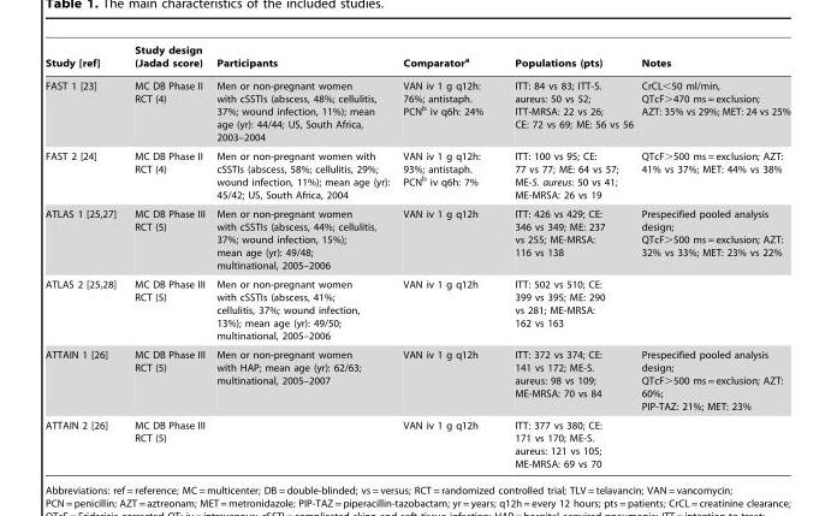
<table><thead><tr><td>Study [ref]</td><td>Study design (Jadad score)</td><td>Participants</td><td>Comparator<sup>a</sup></td><td>Populations (pts)</td><td>Notes</td></tr></thead><tbody><tr><td>FAST 1 [23]</td><td>MC DB Phase II RCT (4)</td><td>Men or non-pregnant women with cSSTIs (abscess, 48%; cellulitis, 37%; wound infection, 11%); mean age (yr): 44/44; US, South Africa, 2003–2004</td><td>VAN iv 1 g q12h: 76%; antistaph. PCN<sup>b</sup> iv q6h: 24%</td><td>ITT: 84 vs 83; ITT-S. aureus: 50 vs 52; ITT-MRSA: 22 vs 26; CE: 72 vs 69; ME: 56 vs 56</td><td>CrCL&lt;50 ml/min, QTcF&gt;470 ms = exclusion; AZT: 35% vs 29%; MET: 24 vs 25%</td></tr><tr><td>FAST 2 [24]</td><td>MC DB Phase II RCT (4)</td><td>Men or non-pregnant women with cSSTIs (abscess, 58%; cellulitis, 29%; wound infection, 11%); mean age (yr): 45/42; US, South Africa, 2004</td><td>VAN iv 1 g q12h: 93%; antistaph. PCN<sup>b</sup> iv q6h: 7%</td><td>ITT: 100 vs 95; CE: 77 vs 77; ME: 64 vs 57; ME-S. aureus: 50 vs 41; ME-MRSA: 26 vs 19</td><td>QTcF&gt;500 ms = exclusion; AZT: 41% vs 37%; MET: 44% vs 38%</td></tr><tr><td>ATLAS 1 [25,27]</td><td>MC DB Phase III RCT (5)</td><td>Men or non-pregnant women with cSSTIs (abscess, 44%; cellulitis, 37%; wound infection, 15%); mean age (yr): 49/48; multinational, 2005–2006</td><td>VAN iv 1 g q12h</td><td>ITT: 426 vs 429; CE: 346 vs 349; ME: 237 vs 255; ME-MRSA: 116 vs 138</td><td>Prespecified pooled analysis design; QTcF&gt;500 ms = exclusion; AZT: 32% vs 33%; MET: 23% vs 22%</td></tr><tr><td>ATLAS 2 [25,28]</td><td>MC DB Phase III RCT (5)</td><td>Men or non-pregnant women with cSSTIs (abscess, 41%; cellulitis, 37%; wound infection, 13%); mean age (yr): 49/50; multinational, 2005–2006</td><td>VAN iv 1 g q12h</td><td>ITT: 502 vs 510; CE: 399 vs 395; ME: 290 vs 281; ME-MRSA: 162 vs 163</td><td></td></tr><tr><td>ATTAIN 1 [26]</td><td>MC DB Phase III RCT (5)</td><td>Men or non-pregnant women with HAP; mean age (yr): 62/63; multinational, 2005–2007</td><td>VAN iv 1 g q12h</td><td>ITT: 372 vs 374; CE: 141 vs 172; ME-S. aureus: 98 vs 109; ME-MRSA: 70 vs 84</td><td>Prespecified pooled analysis design; QTcF&gt;500 ms = exclusion; AZT: 60%; PIP-TAZ: 21%; MET: 23%</td></tr><tr><td>ATTAIN 2 [26]</td><td>MC DB Phase III RCT (5)</td><td></td><td>VAN iv 1 g q12h</td><td>ITT: 377 vs 380; CE: 171 vs 170; ME-S. aureus: 121 vs 105; ME-MRSA: 69 vs 70</td><td></td></tr></tbody></table>